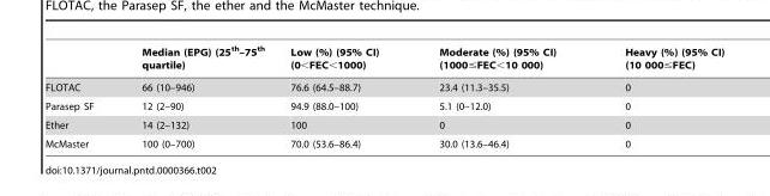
<table><thead><tr><td></td><td>Median (EPG) (25<sup>th</sup>–75<sup>th</sup> quartile)</td><td>Low (%) (95% CI) (0&lt;FEC&lt;1000)</td><td>Moderate (%) (95% CI) (1000≤FEC&lt;10 000)</td><td>Heavy (%) (95% CI) (10 000≤FEC)</td></tr></thead><tbody><tr><td>FLOTAC</td><td>66 (10–946)</td><td>76.6 (64.5–88.7)</td><td>23.4 (11.3–35.5)</td><td>0</td></tr><tr><td>Parasep SF</td><td>12 (2–90)</td><td>94.9 (88.0–100)</td><td>5.1 (0–12.0)</td><td>0</td></tr><tr><td>Ether</td><td>14 (2–132)</td><td>100</td><td>0</td><td>0</td></tr><tr><td>McMaster</td><td>100 (0–700)</td><td>70.0 (53.6–86.4)</td><td>30.0 (13.6–46.4)</td><td>0</td></tr></tbody></table>